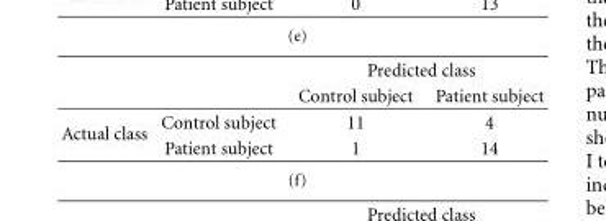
<table><thead><tr><td rowspan="2"></td><td rowspan="2"></td><td colspan="2">Predicted class</td></tr><tr><td>Control subject</td><td>Patient subject</td></tr></thead><tbody><tr><td rowspan="2">Actual class</td><td>Control subject</td><td>11</td><td>4</td></tr><tr><td>Patient subject</td><td>1</td><td>14</td></tr></tbody></table>